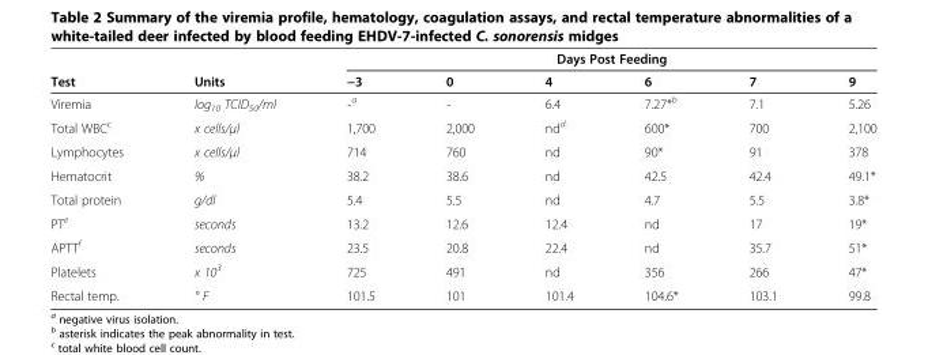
<table><thead><tr><td rowspan="2">Test</td><td rowspan="2">Units</td><td colspan="6">Days Post Feeding</td></tr><tr><td>−3</td><td>0</td><td>4</td><td>6</td><td>7</td><td>9</td></tr></thead><tbody><tr><td>Viremia</td><td>log<sub>10</sub> TCID<sub>50</sub>/ml</td><td>˗a</td><td>˗</td><td>6.4</td><td>7.27*<sup>b</sup></td><td>7.1</td><td>5.26</td></tr><tr><td>Total WBC<sup>c</sup></td><td>x cells/μl</td><td>1,700</td><td>2,000</td><td>nd<sup>d</sup></td><td>600*</td><td>700</td><td>2,100</td></tr><tr><td>Lymphocytes</td><td>x cells/μl</td><td>714</td><td>760</td><td>nd</td><td>90*</td><td>91</td><td>378</td></tr><tr><td>Hematocrit</td><td>%</td><td>38.2</td><td>38.6</td><td>nd</td><td>42.5</td><td>42.4</td><td>49.1*</td></tr><tr><td>Total protein</td><td>g/dl</td><td>5.4</td><td>5.5</td><td>nd</td><td>4.7</td><td>5.5</td><td>3.8*</td></tr><tr><td>PT<sup>e</sup></td><td>seconds</td><td>13.2</td><td>12.6</td><td>12.4</td><td>nd</td><td>17</td><td>19*</td></tr><tr><td>APTT<sup>f</sup></td><td>seconds</td><td>23.5</td><td>20.8</td><td>22.4</td><td>nd</td><td>35.7</td><td>51*</td></tr><tr><td>Platelets</td><td>x 10<sup>3</sup></td><td>725</td><td>491</td><td>nd</td><td>356</td><td>266</td><td>47*</td></tr><tr><td>Rectal temp.</td><td>° F</td><td>101.5</td><td>101</td><td>101.4</td><td>104.6*</td><td>103.1</td><td>99.8</td></tr></tbody></table>